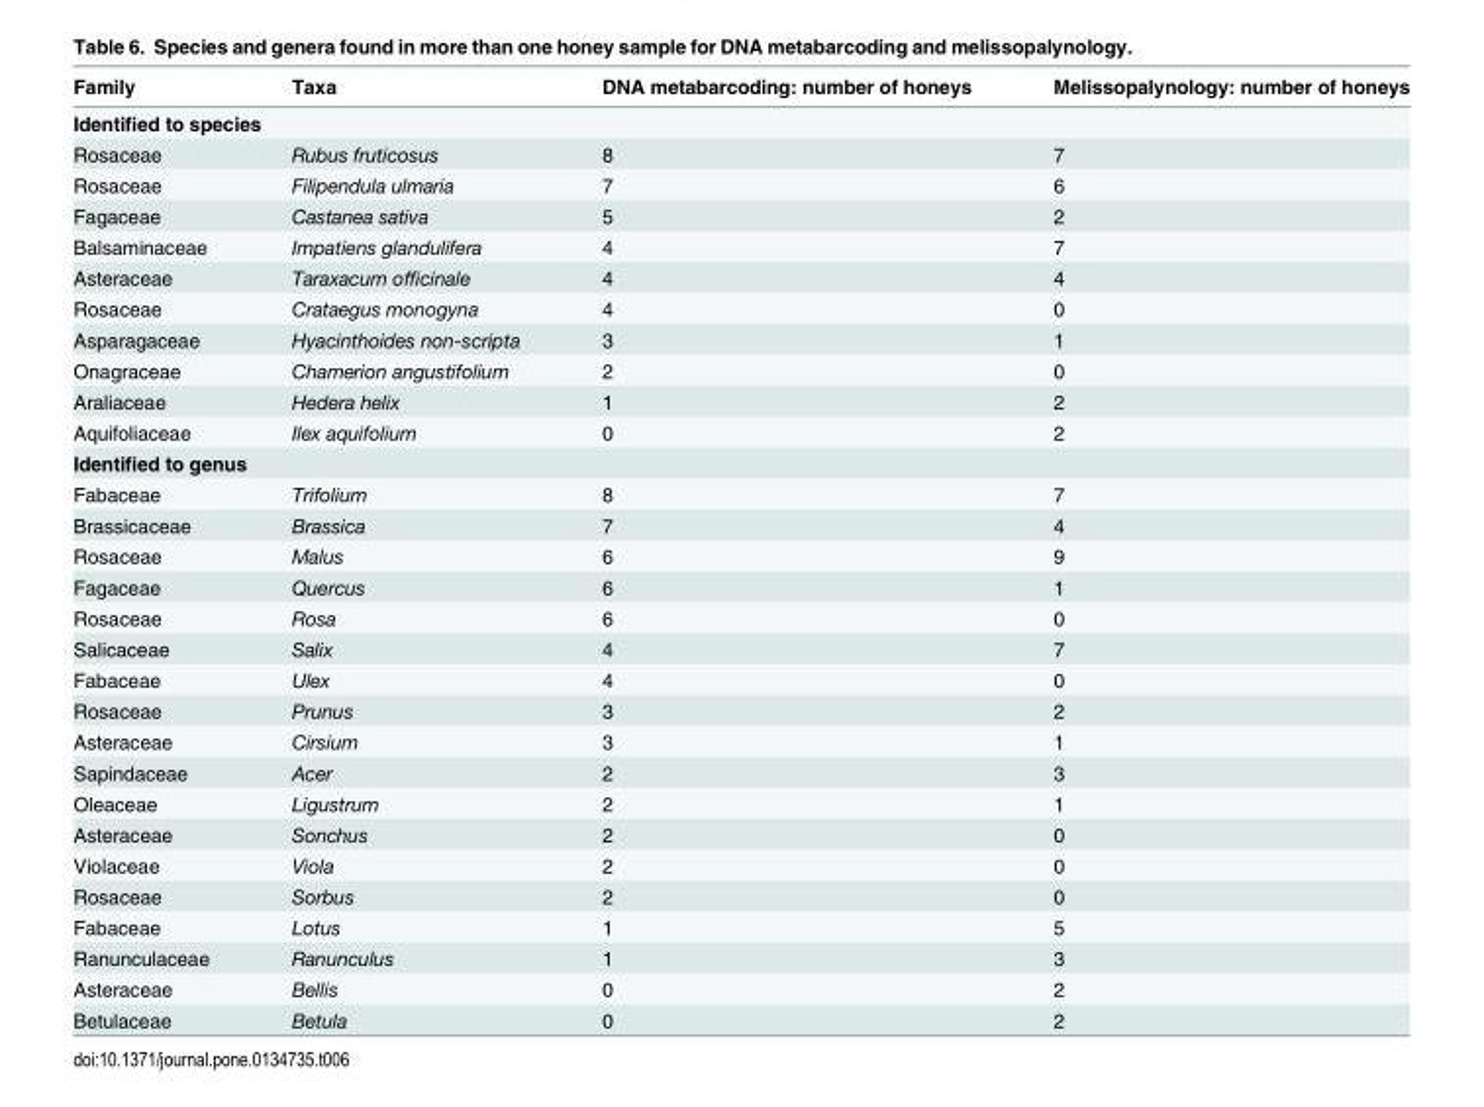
<table><thead><tr><td>Family</td><td>Taxa</td><td>DNA metabarcoding: number of honeys</td><td>Melissopalynology: number of honeys</td></tr></thead><tbody><tr><td colspan="4">Identified to species</td></tr><tr><td>Rosaceae</td><td>Rubus fruticosus</td><td>8</td><td>7</td></tr><tr><td>Rosaceae</td><td>Filipendula ulmaria</td><td>7</td><td>6</td></tr><tr><td>Fagaceae</td><td>Castanea sativa</td><td>5</td><td>2</td></tr><tr><td>Balsaminaceae</td><td>Impatiens glandulifera</td><td>4</td><td>7</td></tr><tr><td>Asteraceae</td><td>Taraxacum officinale</td><td>4</td><td>4</td></tr><tr><td>Rosaceae</td><td>Crataegus monogyna</td><td>4</td><td>0</td></tr><tr><td>Asparagaceae</td><td>Hyacinthoides non-scripta</td><td>3</td><td>1</td></tr><tr><td>Onagraceae</td><td>Chamerion angustifolium</td><td>2</td><td>0</td></tr><tr><td>Araliaceae</td><td>Hedera helix</td><td>1</td><td>2</td></tr><tr><td>Aquifoliaceae</td><td>Ilex aquifolium</td><td>0</td><td>2</td></tr><tr><td colspan="4">Identified to genus</td></tr><tr><td>Fabaceae</td><td>Trifolium</td><td>8</td><td>7</td></tr><tr><td>Brassicaceae</td><td>Brassica</td><td>7</td><td>4</td></tr><tr><td>Rosaceae</td><td>Malus</td><td>6</td><td>9</td></tr><tr><td>Fagaceae</td><td>Quercus</td><td>6</td><td>1</td></tr><tr><td>Rosaceae</td><td>Rosa</td><td>6</td><td>0</td></tr><tr><td>Salicaceae</td><td>Salix</td><td>4</td><td>7</td></tr><tr><td>Fabaceae</td><td>Ulex</td><td>4</td><td>0</td></tr><tr><td>Rosaceae</td><td>Prunus</td><td>3</td><td>2</td></tr><tr><td>Asteraceae</td><td>Cirsium</td><td>3</td><td>1</td></tr><tr><td>Sapindaceae</td><td>Acer</td><td>2</td><td>3</td></tr><tr><td>Oleaceae</td><td>Ligustrum</td><td>2</td><td>1</td></tr><tr><td>Asteraceae</td><td>Sonchus</td><td>2</td><td>0</td></tr><tr><td>Violaceae</td><td>Viola</td><td>2</td><td>0</td></tr><tr><td>Rosaceae</td><td>Sorbus</td><td>2</td><td>0</td></tr><tr><td>Fabaceae</td><td>Lotus</td><td>1</td><td>5</td></tr><tr><td>Ranunculaceae</td><td>Ranunculus</td><td>1</td><td>3</td></tr><tr><td>Asteraceae</td><td>Bellis</td><td>0</td><td>2</td></tr><tr><td>Betulaceae</td><td>Betula</td><td>0</td><td>2</td></tr></tbody></table>